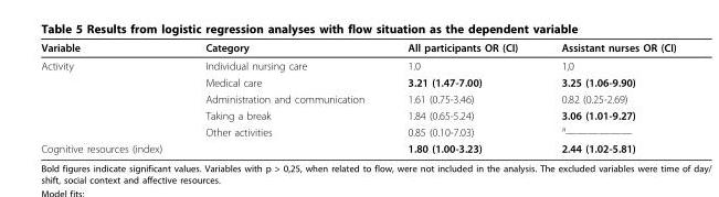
<table><thead><tr><td>Variable</td><td>Category</td><td>All participants OR (CI)</td><td>Assistant nurses OR (CI)</td></tr></thead><tbody><tr><td rowspan="5">Activity</td><td>Individual nursing care</td><td>1.0</td><td>1,0</td></tr><tr><td>Medical care</td><td>3.21 (1.47-7.00)</td><td>3.25 (1.06-9.90)</td></tr><tr><td>Administration and communication</td><td>1.61 (0.75-3.46)</td><td>0.82 (0.25-2.69)</td></tr><tr><td>Taking a break</td><td>1.84 (0.65-5.24)</td><td>3.06 (1.01-9.27)</td></tr><tr><td>Other activities</td><td>0.85 (0.10-7.03)</td><td>a——————</td></tr><tr><td>Cognitive resources (index)</td><td></td><td>1.80 (1.00-3.23)</td><td>2.44 (1.02-5.81)</td></tr></tbody></table>